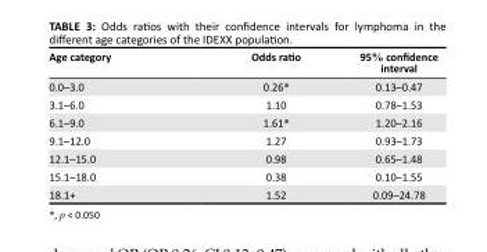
<table><thead><tr><td>Age category</td><td>Odds ratio</td><td>95% confidence interval</td></tr></thead><tbody><tr><td>0.0–3.0</td><td>0.26*</td><td>0.13–0.47</td></tr><tr><td>3.1–6.0</td><td>1.10</td><td>0.78–1.53</td></tr><tr><td>6.1–9.0</td><td>1.61*</td><td>1.20–2.16</td></tr><tr><td>9.1–12.0</td><td>1.27</td><td>0.93–1.73</td></tr><tr><td>12.1–15.0</td><td>0.98</td><td>0.65–1.48</td></tr><tr><td>15.1–18.0</td><td>0.38</td><td>0.10–1.55</td></tr><tr><td>18.1+</td><td>1.52</td><td>0.09–24.78</td></tr></tbody></table>